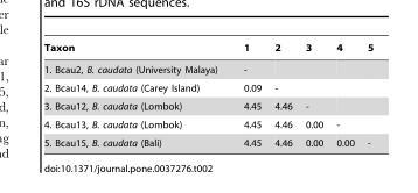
<table><thead><tr><td>Taxon</td><td>1</td><td>2</td><td>3</td><td>4</td><td>5</td></tr></thead><tbody><tr><td>1. Bcau2, B. caudata (University Malaya)</td><td>-</td><td></td><td></td><td></td><td></td></tr><tr><td>2. Bcau14, B. caudata (Carey Island)</td><td>0.09</td><td>-</td><td></td><td></td><td></td></tr><tr><td>3. Bcau12, B. caudata (Lombok)</td><td>4.45</td><td>4.46</td><td>-</td><td></td><td></td></tr><tr><td>4. Bcau13, B. caudata (Lombok)</td><td>4.45</td><td>4.46</td><td>0.00</td><td>-</td><td></td></tr><tr><td>5. Bcau15, B. caudata (Bali)</td><td>4.45</td><td>4.46</td><td>0.00</td><td>0.00</td><td>-</td></tr></tbody></table>